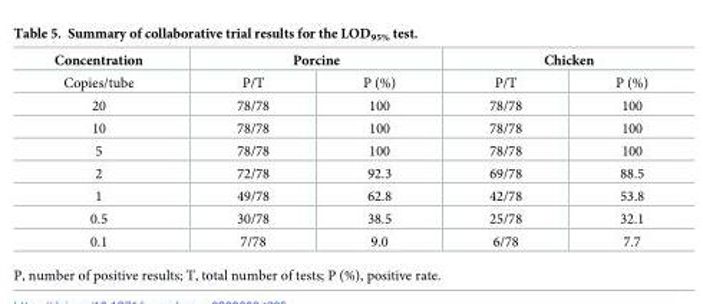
<table><thead><tr><td rowspan="2">Concentration Copies/tube</td><td colspan="2">Porcine</td><td colspan="2">Chicken</td></tr><tr><td>P/T</td><td>P (%)</td><td>P/T</td><td>P (%)</td></tr></thead><tbody><tr><td>20</td><td>78/78</td><td>100</td><td>78/78</td><td>100</td></tr><tr><td>10</td><td>78/78</td><td>100</td><td>78/78</td><td>100</td></tr><tr><td>5</td><td>78/78</td><td>100</td><td>78/78</td><td>100</td></tr><tr><td>2</td><td>72/78</td><td>92.3</td><td>69/78</td><td>88.5</td></tr><tr><td>1</td><td>49/78</td><td>62.8</td><td>42/78</td><td>53.8</td></tr><tr><td>0.5</td><td>30/78</td><td>38.5</td><td>25/78</td><td>32.1</td></tr><tr><td>0.1</td><td>7/78</td><td>9.0</td><td>6/78</td><td>7.7</td></tr></tbody></table>